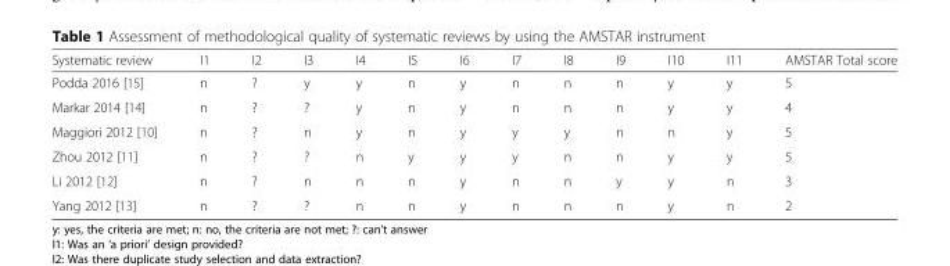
<table><thead><tr><td>Systematic review</td><td>I1</td><td>I2</td><td>I3</td><td>I4</td><td>I5</td><td>I6</td><td>I7</td><td>I8</td><td>I9</td><td>I10</td><td>I11</td><td>AMSTAR Total score</td></tr></thead><tbody><tr><td>Podda 2016 [15]</td><td>n</td><td>?</td><td>y</td><td>y</td><td>n</td><td>y</td><td>n</td><td>n</td><td>n</td><td>y</td><td>y</td><td>5</td></tr><tr><td>Markar 2014 [14]</td><td>n</td><td>?</td><td>?</td><td>y</td><td>n</td><td>y</td><td>n</td><td>n</td><td>n</td><td>y</td><td>y</td><td>4</td></tr><tr><td>Maggiori 2012 [10]</td><td>n</td><td>?</td><td>n</td><td>y</td><td>n</td><td>y</td><td>y</td><td>y</td><td>n</td><td>n</td><td>y</td><td>5</td></tr><tr><td>Zhou 2012 [11]</td><td>n</td><td>?</td><td>?</td><td>n</td><td>y</td><td>y</td><td>y</td><td>n</td><td>n</td><td>y</td><td>y</td><td>5</td></tr><tr><td>Li 2012 [12]</td><td>n</td><td>?</td><td>n</td><td>n</td><td>n</td><td>y</td><td>n</td><td>n</td><td>y</td><td>y</td><td>n</td><td>3</td></tr><tr><td>Yang 2012 [13]</td><td>n</td><td>?</td><td>?</td><td>n</td><td>n</td><td>y</td><td>n</td><td>n</td><td>n</td><td>y</td><td>n</td><td>2</td></tr></tbody></table>